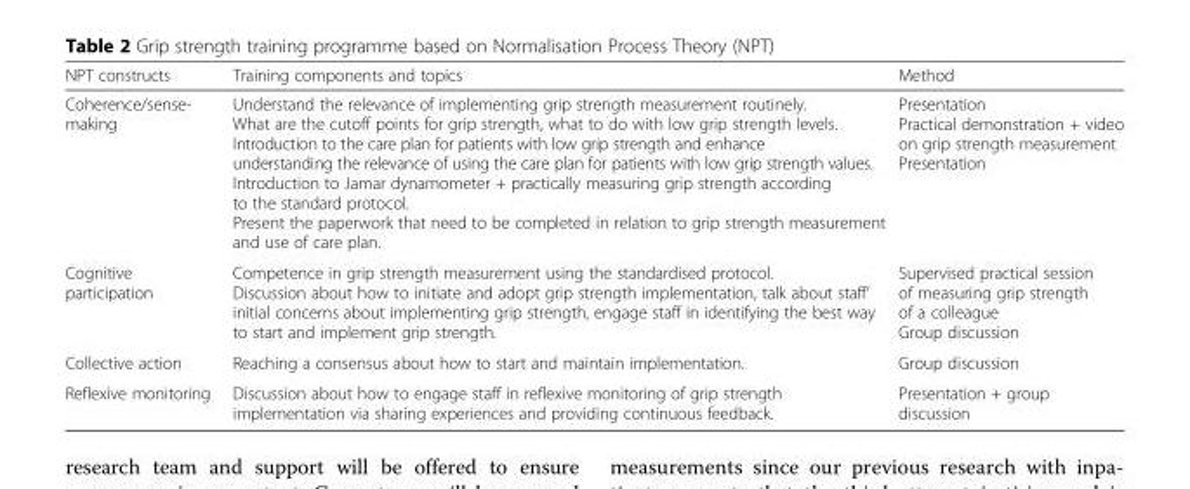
<table><thead><tr><td>NPT constructs</td><td>Training components and topics</td><td>Method</td></tr></thead><tbody><tr><td>Coherence/sense- making</td><td>Understand the relevance of implementing grip strength measurement routinely. What are the cutoff points for grip strength, what to do with low grip strength levels. Introduction to the care plan for patients with low grip strength and enhance understanding the relevance of using the care plan for patients with low grip strength values. Introduction to Jamar dynamometer + practically measuring grip strength according to the standard protocol. Present the paperwork that need to be completed in relation to grip strength measurement and use of care plan.</td><td>Presentation Practical demonstration + video on grip strength measurement Presentation</td></tr><tr><td>Cognitive participation</td><td>Competence in grip strength measurement using the standardised protocol. Discussion about how to initiate and adopt grip strength implementation, talk about staff’ initial concerns about implementing grip strength, engage staff in identifying the best way to start and implement grip strength.</td><td>Supervised practical session of measuring grip strength of a colleague Group discussion</td></tr><tr><td>Collective action</td><td>Reaching a consensus about how to start and maintain implementation.</td><td>Group discussion</td></tr><tr><td>Reflexive monitoring</td><td>Discussion about how to engage staff in reflexive monitoring of grip strength implementation via sharing experiences and providing continuous feedback.</td><td>Presentation + group discussion</td></tr></tbody></table>